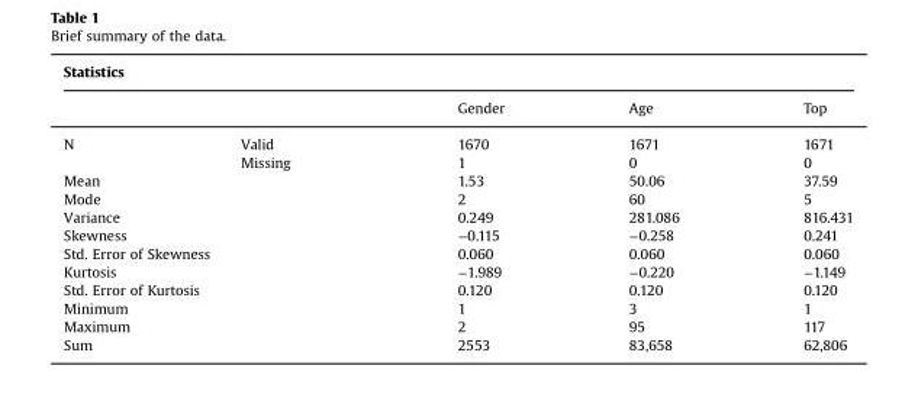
<table><thead><tr><td colspan="5">Statistics</td></tr><tr><td></td><td></td><td>Gender</td><td>Age</td><td>Top</td></tr></thead><tbody><tr><td rowspan="2">N</td><td>Valid</td><td>1670</td><td>1671</td><td>1671</td></tr><tr><td>Missing</td><td>1</td><td>0</td><td>0</td></tr><tr><td colspan="2">Mean</td><td>1.53</td><td>50.06</td><td>37.59</td></tr><tr><td colspan="2">Mode</td><td>2</td><td>60</td><td>5</td></tr><tr><td colspan="2">Variance</td><td>0.249</td><td>281.086</td><td>816.431</td></tr><tr><td colspan="2">Skewness</td><td>−0.115</td><td>−0.258</td><td>0.241</td></tr><tr><td colspan="2">Std. Error of Skewness</td><td>0.060</td><td>0.060</td><td>0.060</td></tr><tr><td colspan="2">Kurtosis</td><td>−1.989</td><td>−0.220</td><td>−1.149</td></tr><tr><td colspan="2">Std. Error of Kurtosis</td><td>0.120</td><td>0.120</td><td>0.120</td></tr><tr><td colspan="2">Minimum</td><td>1</td><td>3</td><td>1</td></tr><tr><td colspan="2">Maximum</td><td>2</td><td>95</td><td>117</td></tr><tr><td colspan="2">Sum</td><td>2553</td><td>83,658</td><td>62,806</td></tr></tbody></table>